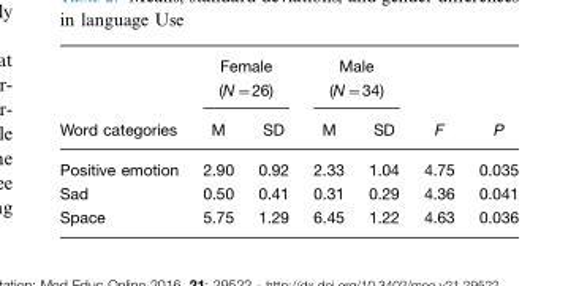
<table><thead><tr><td rowspan="2">Word categories</td><td colspan="2">Female (N=26)</td><td colspan="2">Male (N=34)</td><td rowspan="2">F</td><td rowspan="2">P</td></tr><tr><td>M</td><td>SD</td><td>M</td><td>SD</td></tr></thead><tbody><tr><td>Positive emotion</td><td>2.90</td><td>0.92</td><td>2.33</td><td>1.04</td><td>4.75</td><td>0.035</td></tr><tr><td>Sad</td><td>0.50</td><td>0.41</td><td>0.31</td><td>0.29</td><td>4.36</td><td>0.041</td></tr><tr><td>Space</td><td>5.75</td><td>1.29</td><td>6.45</td><td>1.22</td><td>4.63</td><td>0.036</td></tr></tbody></table>